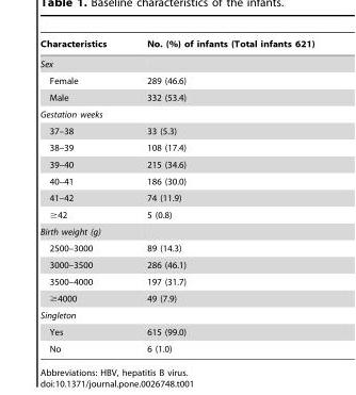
<table><thead><tr><td>Characteristics</td><td>No. (%) of infants (Total infants 621)</td></tr></thead><tbody><tr><td colspan="2">Sex</td></tr><tr><td>Female</td><td>289 (46.6)</td></tr><tr><td>Male</td><td>332 (53.4)</td></tr><tr><td colspan="2">Gestation weeks</td></tr><tr><td>37–38</td><td>33 (5.3)</td></tr><tr><td>38–39</td><td>108 (17.4)</td></tr><tr><td>39–40</td><td>215 (34.6)</td></tr><tr><td>40–41</td><td>186 (30.0)</td></tr><tr><td>41–42</td><td>74 (11.9)</td></tr><tr><td>≥42</td><td>5 (0.8)</td></tr><tr><td colspan="2">Birth weight (g)</td></tr><tr><td>2500–3000</td><td>89 (14.3)</td></tr><tr><td>3000–3500</td><td>286 (46.1)</td></tr><tr><td>3500–4000</td><td>197 (31.7)</td></tr><tr><td>≥4000</td><td>49 (7.9)</td></tr><tr><td colspan="2">Singleton</td></tr><tr><td>Yes</td><td>615 (99.0)</td></tr><tr><td>No</td><td>6 (1.0)</td></tr></tbody></table>